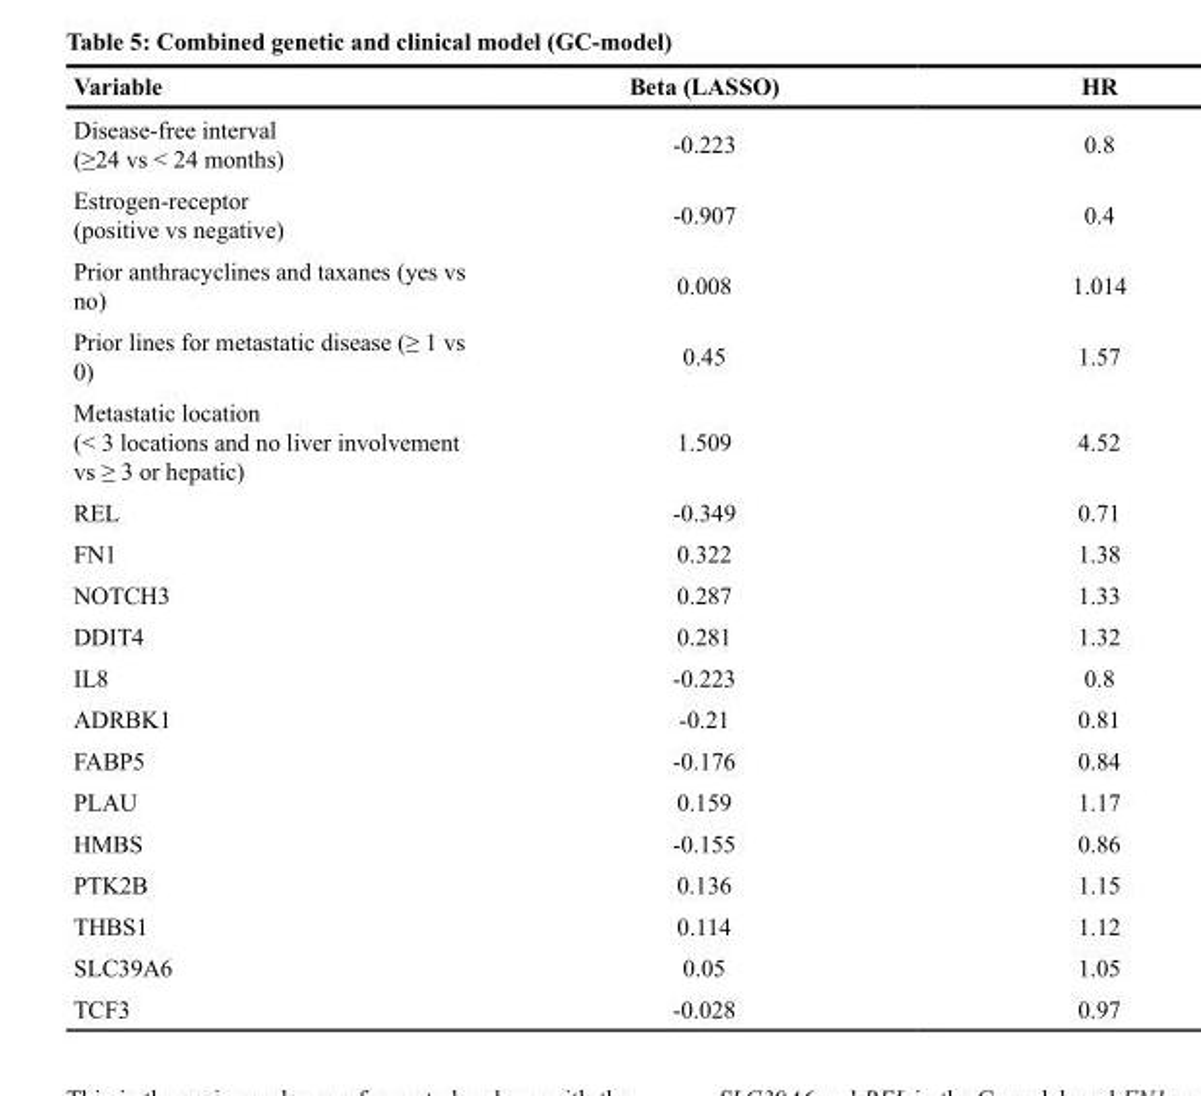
<table><thead><tr><td>Variable</td><td>Beta (LASSO)</td><td>HR</td></tr></thead><tbody><tr><td>Disease-free interval (≥24 vs &lt; 24 months)</td><td>-0.223</td><td>0.8</td></tr><tr><td>Estrogen-receptor (positive vs negative)</td><td>-0.907</td><td>0.4</td></tr><tr><td>Prior anthracyclines and taxanes (yes vs no)</td><td>0.008</td><td>1.014</td></tr><tr><td>Prior lines for metastatic disease (≥ 1 vs 0)</td><td>0.45</td><td>1.57</td></tr><tr><td>Metastatic location (&lt; 3 locations and no liver involvement vs ≥ 3 or hepatic)</td><td>1.509</td><td>4.52</td></tr><tr><td>REL</td><td>-0.349</td><td>0.71</td></tr><tr><td>FN1</td><td>0.322</td><td>1.38</td></tr><tr><td>NOTCH3</td><td>0.287</td><td>1.33</td></tr><tr><td>DDIT4</td><td>0.281</td><td>1.32</td></tr><tr><td>IL8</td><td>-0.223</td><td>0.8</td></tr><tr><td>ADRBK1</td><td>-0.21</td><td>0.81</td></tr><tr><td>FABP5</td><td>-0.176</td><td>0.84</td></tr><tr><td>PLAU</td><td>0.159</td><td>1.17</td></tr><tr><td>HMBS</td><td>-0.155</td><td>0.86</td></tr><tr><td>PTK2B</td><td>0.136</td><td>1.15</td></tr><tr><td>THBS1</td><td>0.114</td><td>1.12</td></tr><tr><td>SLC39A6</td><td>0.05</td><td>1.05</td></tr><tr><td>TCF3</td><td>-0.028</td><td>0.97</td></tr></tbody></table>